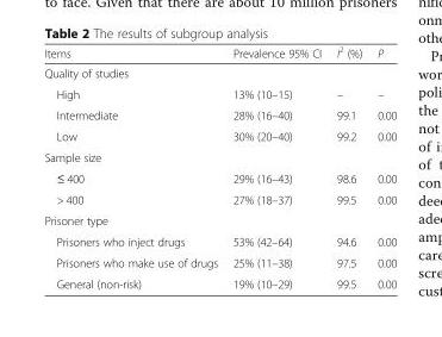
<table><thead><tr><td>Items</td><td>Prevalence 95% CI</td><td>I<sup>2</sup> (%)</td><td>P</td></tr></thead><tbody><tr><td colspan="4">Quality of studies</td></tr><tr><td>High</td><td>13% (10–15)</td><td>–</td><td>–</td></tr><tr><td>Intermediate</td><td>28% (16–40)</td><td>99.1</td><td>0.00</td></tr><tr><td>Low</td><td>30% (20–40)</td><td>99.2</td><td>0.00</td></tr><tr><td colspan="4">Sample size</td></tr><tr><td>≤ 400</td><td>29% (16–43)</td><td>98.6</td><td>0.00</td></tr><tr><td>&gt; 400</td><td>27% (18–37)</td><td>99.5</td><td>0.00</td></tr><tr><td colspan="4">Prisoner type</td></tr><tr><td>Prisoners who inject drugs</td><td>53% (42–64)</td><td>94.6</td><td>0.00</td></tr><tr><td>Prisoners who make use of drugs</td><td>25% (11–38)</td><td>97.5</td><td>0.00</td></tr><tr><td>General (non-risk)</td><td>19% (10–29)</td><td>99.5</td><td>0.00</td></tr></tbody></table>